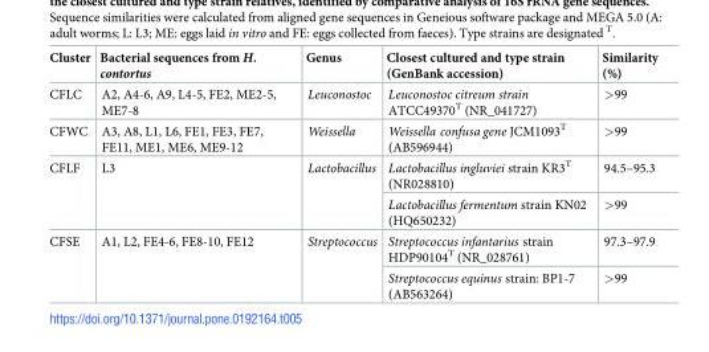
<table><thead><tr><td>Cluster</td><td>Bacterial sequences from H. contortus</td><td>Genus</td><td>Closest cultured and type strain (GenBank accession)</td><td>Similarity (%)</td></tr></thead><tbody><tr><td>CFLC</td><td>A2, A4-6, A9, L4-5, FE2, ME2-5, ME7-8</td><td>Leuconostoc</td><td>Leuconostoc citreum strain ATCC49370<sup>T</sup> (NR_041727)</td><td>&gt;99</td></tr><tr><td>CFWC</td><td>A3, A8, L1, L6, FE1, FE3, FE7, FE11, ME1, ME6, ME9-12</td><td>Weissella</td><td>Weissella confusa gene JCM1093<sup>T</sup> (AB596944)</td><td>&gt;99</td></tr><tr><td rowspan="2">CFLF</td><td rowspan="2">L3</td><td rowspan="2">Lactobacillus</td><td>Lactobacillus ingluviei strain KR3<sup>T</sup> (NR028810)</td><td>94.5–95.3</td></tr><tr><td>Lactobacillus fermentum strain KN02 (HQ650232)</td><td>&gt;99</td></tr><tr><td rowspan="2">CFSE</td><td rowspan="2">A1, L2, FE4-6, FE8-10, FE12</td><td rowspan="2">Streptococcus</td><td>Streptococcus infantarius strain HDP90104<sup>T</sup> (NR_028761)</td><td>97.3–97.9</td></tr><tr><td>Streptococcus equinus strain: BP1-7 (AB563264)</td><td>&gt;99</td></tr></tbody></table>